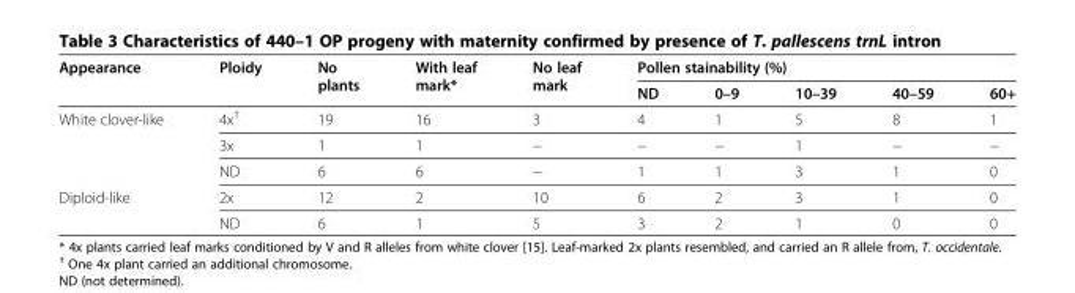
<table><thead><tr><td rowspan="2">Appearance</td><td rowspan="2">Ploidy</td><td rowspan="2">No plants</td><td rowspan="2">With leaf mark*</td><td rowspan="2">No leaf mark</td><td colspan="5">Pollen stainability (%)</td></tr><tr><td>ND</td><td>0–9</td><td>10–39</td><td>40–59</td><td>60+</td></tr></thead><tbody><tr><td rowspan="3">White clover-like</td><td>4x†</td><td>19</td><td>16</td><td>3</td><td>4</td><td>1</td><td>5</td><td>8</td><td>1</td></tr><tr><td>3x</td><td>1</td><td>1</td><td>−</td><td>−</td><td>−</td><td>1</td><td>−</td><td>−</td></tr><tr><td>ND</td><td>6</td><td>6</td><td>−</td><td>1</td><td>1</td><td>3</td><td>1</td><td>0</td></tr><tr><td rowspan="2">Diploid-like</td><td>2x</td><td>12</td><td>2</td><td>10</td><td>6</td><td>2</td><td>3</td><td>1</td><td>0</td></tr><tr><td>ND</td><td>6</td><td>1</td><td>5</td><td>3</td><td>2</td><td>1</td><td>0</td><td>0</td></tr></tbody></table>